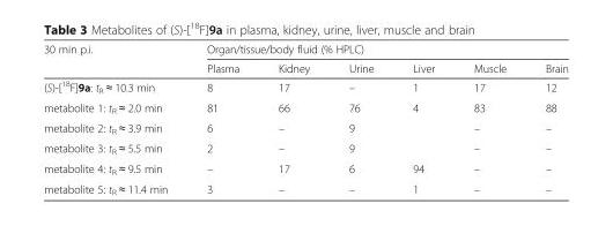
<table><thead><tr><td rowspan="2">30 min p.i.</td><td colspan="6">Organ/tissue/body fluid (% HPLC)</td></tr><tr><td>Plasma</td><td>Kidney</td><td>Urine</td><td>Liver</td><td>Muscle</td><td>Brain</td></tr></thead><tbody><tr><td>(S)-[<sup>18</sup>F]9a: t<sub>R</sub> ≈ 10.3 min</td><td>8</td><td>17</td><td>–</td><td>1</td><td>17</td><td>12</td></tr><tr><td>metabolite 1: t<sub>R</sub> ≈ 2.0 min</td><td>81</td><td>66</td><td>76</td><td>4</td><td>83</td><td>88</td></tr><tr><td>metabolite 2: t<sub>R</sub> ≈ 3.9 min</td><td>6</td><td>–</td><td>9</td><td></td><td>–</td><td>–</td></tr><tr><td>metabolite 3: t<sub>R</sub> ≈ 5.5 min</td><td>2</td><td>–</td><td>9</td><td></td><td>–</td><td>–</td></tr><tr><td>metabolite 4: t<sub>R</sub> ≈ 9.5 min</td><td>–</td><td>17</td><td>6</td><td>94</td><td>–</td><td>–</td></tr><tr><td>metabolite 5: t<sub>R</sub> ≈ 11.4 min</td><td>3</td><td>–</td><td>–</td><td>1</td><td>–</td><td>–</td></tr></tbody></table>